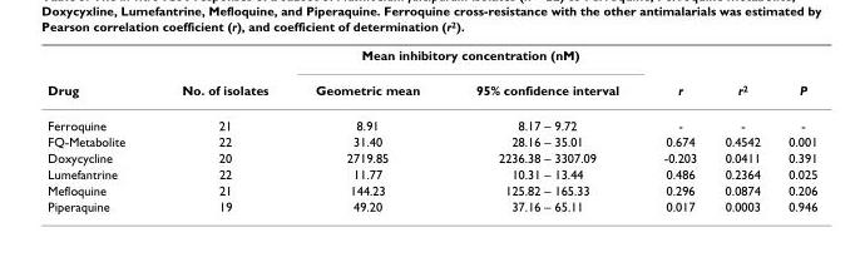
<table><thead><tr><td rowspan="2">Drug</td><td rowspan="2">No. of isolates</td><td colspan="2">Mean inhibitory concentration (nM)</td><td rowspan="2">r</td><td rowspan="2">r<sup>2</sup></td><td rowspan="2">P</td></tr><tr><td>Geometric mean</td><td>95% confidence interval</td></tr></thead><tbody><tr><td>Ferroquine</td><td>21</td><td>8.91</td><td>8.17 – 9.72</td><td>-</td><td>-</td><td>-</td></tr><tr><td>FQ-Metabolite</td><td>22</td><td>31.40</td><td>28.16 – 35.01</td><td>0.674</td><td>0.4542</td><td>0.001</td></tr><tr><td>Doxycycline</td><td>20</td><td>2719.85</td><td>2236.38 – 3307.09</td><td>-0.203</td><td>0.0411</td><td>0.391</td></tr><tr><td>Lumefantrine</td><td>22</td><td>11.77</td><td>10.31 – 13.44</td><td>0.486</td><td>0.2364</td><td>0.025</td></tr><tr><td>Mefloquine</td><td>21</td><td>144.23</td><td>125.82 – 165.33</td><td>0.296</td><td>0.0874</td><td>0.206</td></tr><tr><td>Piperaquine</td><td>19</td><td>49.20</td><td>37.16 – 65.11</td><td>0.017</td><td>0.0003</td><td>0.946</td></tr></tbody></table>